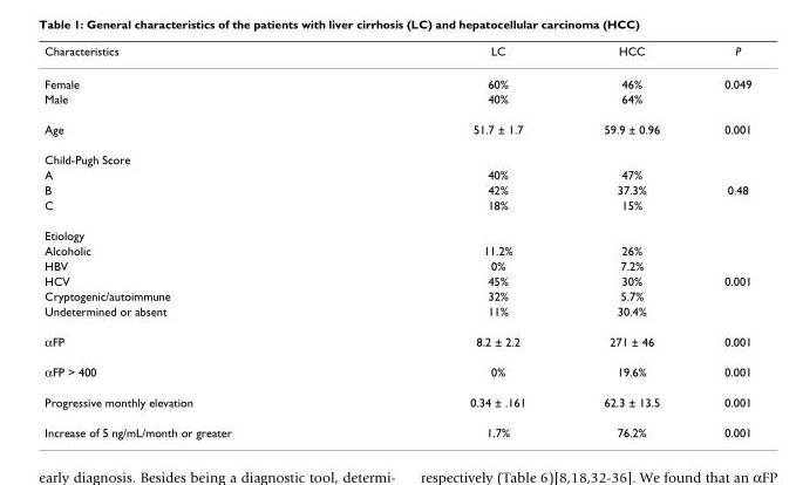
<table><thead><tr><td>Characteristics</td><td>LC</td><td>HCC</td><td>P</td></tr></thead><tbody><tr><td>Female</td><td>60%</td><td>46%</td><td>0.049</td></tr><tr><td>Male</td><td>40%</td><td>64%</td><td></td></tr><tr><td>Age</td><td>51.7 ± 1.7</td><td>59.9 ± 0.96</td><td>0.001</td></tr><tr><td colspan="4">Child-Pugh Score</td></tr><tr><td>A</td><td>40%</td><td>47%</td><td></td></tr><tr><td>B</td><td>42%</td><td>37.3%</td><td>0.48</td></tr><tr><td>C</td><td>18%</td><td>15%</td><td></td></tr><tr><td colspan="4">Etiology</td></tr><tr><td>Alcoholic</td><td>11.2%</td><td>26%</td><td></td></tr><tr><td>HBV</td><td>0%</td><td>7.2%</td><td></td></tr><tr><td>HCV</td><td>45%</td><td>30%</td><td>0.001</td></tr><tr><td>Cryptogenic/autoimmune</td><td>32%</td><td>5.7%</td><td></td></tr><tr><td>Undetermined or absent</td><td>11%</td><td>30.4%</td><td></td></tr><tr><td>αFP</td><td>8.2 ± 2.2</td><td>271 ± 46</td><td>0.001</td></tr><tr><td>αFP &gt; 400</td><td>0%</td><td>19.6%</td><td>0.001</td></tr><tr><td>Progressive monthly elevation</td><td>0.34 ± .161</td><td>62.3 ± 13.5</td><td>0.001</td></tr><tr><td>Increase of 5 ng/mL/month or greater</td><td>1.7%</td><td>76.2%</td><td>0.001</td></tr></tbody></table>